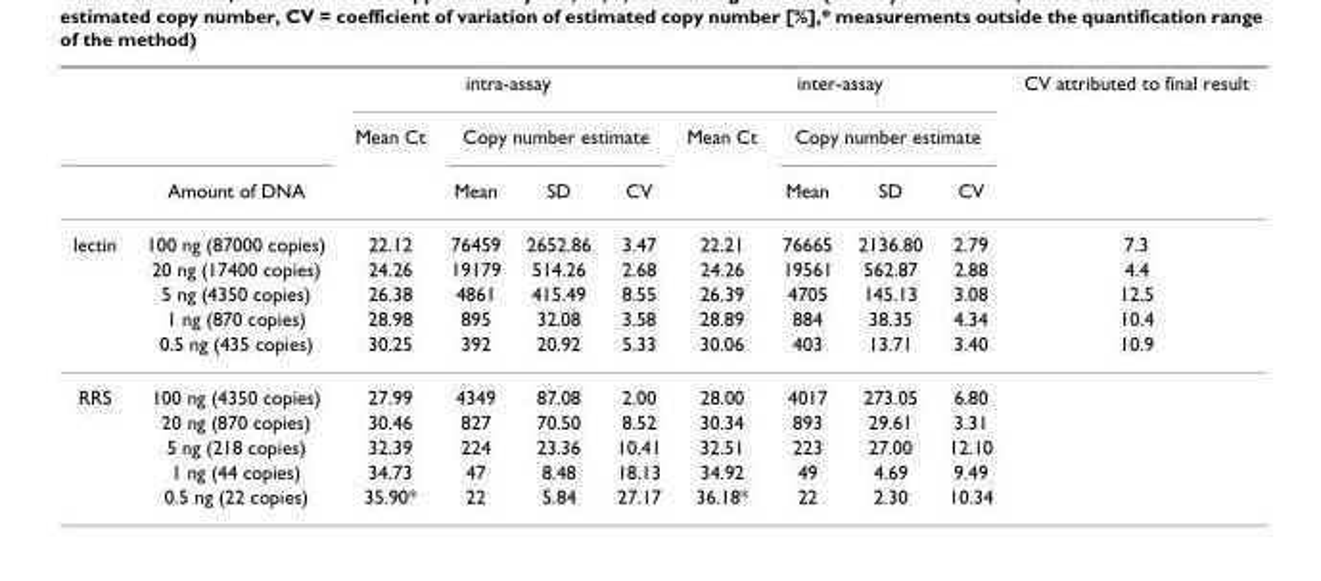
<table><thead><tr><td rowspan="3"></td><td rowspan="3">Amount of DNA</td><td colspan="4">intra-assay</td><td colspan="4">inter-assay</td><td rowspan="3">CV attributed to final result</td></tr><tr><td rowspan="2">Mean Ct</td><td colspan="3">Copy number estimate</td><td rowspan="2">Mean Ct</td><td colspan="3">Copy number estimate</td></tr><tr><td>Mean</td><td>SD</td><td>CV</td><td>Mean</td><td>SD</td><td>CV</td></tr></thead><tbody><tr><td rowspan="5">lectin</td><td>100 ng (87000 copies)</td><td>22.12</td><td>76459</td><td>2652.86</td><td>3.47</td><td>22.21</td><td>76665</td><td>2136.80</td><td>2.79</td><td>7.3</td></tr><tr><td>20 ng (17400 copies)</td><td>24.26</td><td>19179</td><td>514.26</td><td>2.68</td><td>24.26</td><td>19561</td><td>562.87</td><td>2.88</td><td>4.4</td></tr><tr><td>5 ng (4350 copies)</td><td>26.38</td><td>4861</td><td>415.49</td><td>8.55</td><td>26.39</td><td>4705</td><td>145.13</td><td>3.08</td><td>12.5</td></tr><tr><td>1 ng (870 copies)</td><td>28.98</td><td>895</td><td>32.08</td><td>3.58</td><td>28.89</td><td>884</td><td>38.35</td><td>4.34</td><td>10.4</td></tr><tr><td>0.5 ng (435 copies)</td><td>30.25</td><td>392</td><td>20.92</td><td>5.33</td><td>30.06</td><td>403</td><td>13.71</td><td>3.40</td><td>10.9</td></tr><tr><td rowspan="5">RRS</td><td>100 ng (4350 copies)</td><td>27.99</td><td>4349</td><td>87.08</td><td>2.00</td><td>28.00</td><td>4017</td><td>273.05</td><td>6.80</td><td></td></tr><tr><td>20 ng (870 copies)</td><td>30.46</td><td>827</td><td>70.50</td><td>8.52</td><td>30.34</td><td>893</td><td>29.61</td><td>3.31</td><td></td></tr><tr><td>5 ng (218 copies)</td><td>32.39</td><td>224</td><td>23.36</td><td>10.41</td><td>32.51</td><td>223</td><td>27.00</td><td>12.10</td><td></td></tr><tr><td>1 ng (44 copies)</td><td>34.73</td><td>47</td><td>8.48</td><td>18.13</td><td>34.92</td><td>49</td><td>4.69</td><td>9.49</td><td></td></tr><tr><td>0.5 ng (22 copies)</td><td>35.90*</td><td>22</td><td>5.84</td><td>27.17</td><td>36.18*</td><td>22</td><td>2.30</td><td>10.34</td><td></td></tr></tbody></table>